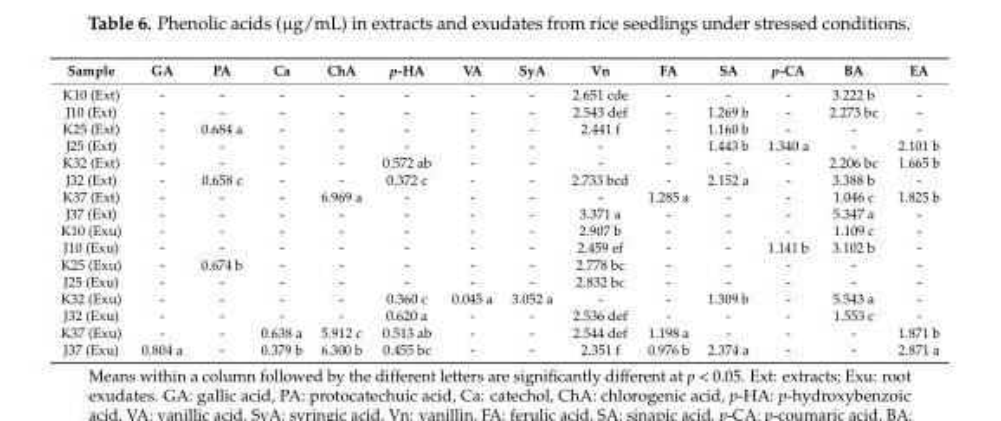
<table><thead><tr><td>Sample</td><td>GA</td><td>PA</td><td>Ca</td><td>ChA</td><td>p-HA</td><td>VA</td><td>SyA</td><td>Vn</td><td>FA</td><td>SA</td><td>p-CA</td><td>BA</td><td>EA</td></tr></thead><tbody><tr><td>K10 (Ext)</td><td>-</td><td>-</td><td>-</td><td>-</td><td>-</td><td>-</td><td>-</td><td>2.651 cde</td><td>-</td><td>-</td><td>-</td><td>3.222 b</td><td>-</td></tr><tr><td>J10 (Ext)</td><td>-</td><td>-</td><td>-</td><td>-</td><td>-</td><td>-</td><td>-</td><td>2.543 def</td><td>-</td><td>1.269 b</td><td>-</td><td>2.273 bc</td><td>-</td></tr><tr><td>K25 (Ext)</td><td>-</td><td>0.684 a</td><td>-</td><td>-</td><td>-</td><td>-</td><td>-</td><td>2.441 f</td><td>-</td><td>1.160 b</td><td>-</td><td>-</td><td>-</td></tr><tr><td>J25 (Ext)</td><td>-</td><td>-</td><td>-</td><td>-</td><td>-</td><td>-</td><td>-</td><td>-</td><td>-</td><td>1.443 b</td><td>1.340 a</td><td>-</td><td>2.101 b</td></tr><tr><td>K32 (Ext)</td><td>-</td><td>-</td><td>-</td><td>-</td><td>0.572 ab</td><td>-</td><td>-</td><td>-</td><td>-</td><td>-</td><td>-</td><td>2.206 bc</td><td>1.665 b</td></tr><tr><td>J32 (Ext)</td><td>-</td><td>0.658 c</td><td>-</td><td>-</td><td>0.372 c</td><td>-</td><td>-</td><td>2.733 bcd</td><td>-</td><td>2.152 a</td><td>-</td><td>3.388 b</td><td>-</td></tr><tr><td>K37 (Ext)</td><td>-</td><td>-</td><td>-</td><td>6.969 a</td><td>-</td><td>-</td><td>-</td><td>-</td><td>1.285 a</td><td>-</td><td>-</td><td>1.046 c</td><td>1.825 b</td></tr><tr><td>J37 (Ext)</td><td>-</td><td>-</td><td>-</td><td>-</td><td>-</td><td>-</td><td>-</td><td>3.371 a</td><td>-</td><td>-</td><td>-</td><td>5.347 a</td><td>-</td></tr><tr><td>K10 (Exu)</td><td>-</td><td>-</td><td>-</td><td>-</td><td>-</td><td>-</td><td>-</td><td>2.907 b</td><td>-</td><td>-</td><td>-</td><td>1.109 c</td><td>-</td></tr><tr><td>J10 (Exu)</td><td>-</td><td>-</td><td>-</td><td>-</td><td>-</td><td>-</td><td>-</td><td>2.459 ef</td><td>-</td><td>-</td><td>1.141 b</td><td>3.102 b</td><td>-</td></tr><tr><td>K25 (Exu)</td><td>-</td><td>0.674 b</td><td>-</td><td>-</td><td>-</td><td>-</td><td>-</td><td>2.778 bc</td><td>-</td><td>-</td><td>-</td><td>-</td><td>-</td></tr><tr><td>J25 (Exu)</td><td>-</td><td>-</td><td>-</td><td>-</td><td>-</td><td>-</td><td>-</td><td>2.832 bc</td><td>-</td><td>-</td><td>-</td><td>-</td><td>-</td></tr><tr><td>K32 (Exu)</td><td>-</td><td>-</td><td>-</td><td>-</td><td>0.360 c</td><td>0.045 a</td><td>3.052 a</td><td>-</td><td>-</td><td>1.309 b</td><td>-</td><td>5.543 a</td><td>-</td></tr><tr><td>J32 (Exu)</td><td>-</td><td>-</td><td>-</td><td>-</td><td>0.620 a</td><td>-</td><td>-</td><td>2.536 def</td><td>-</td><td>-</td><td>-</td><td>1.553 c</td><td>-</td></tr><tr><td>K37 (Exu)</td><td>-</td><td>-</td><td>0.638 a</td><td>5.912 c</td><td>0.513 ab</td><td>-</td><td>-</td><td>2.544 def</td><td>1.198 a</td><td>-</td><td>-</td><td>-</td><td>1.871 b</td></tr><tr><td>J37 (Exu)</td><td>0.804 a</td><td>-</td><td>0.379 b</td><td>6.300 b</td><td>0.455 bc</td><td>-</td><td>-</td><td>2.351 f</td><td>0.976 b</td><td>2.374 a</td><td>-</td><td>-</td><td>2.871 a</td></tr></tbody></table>